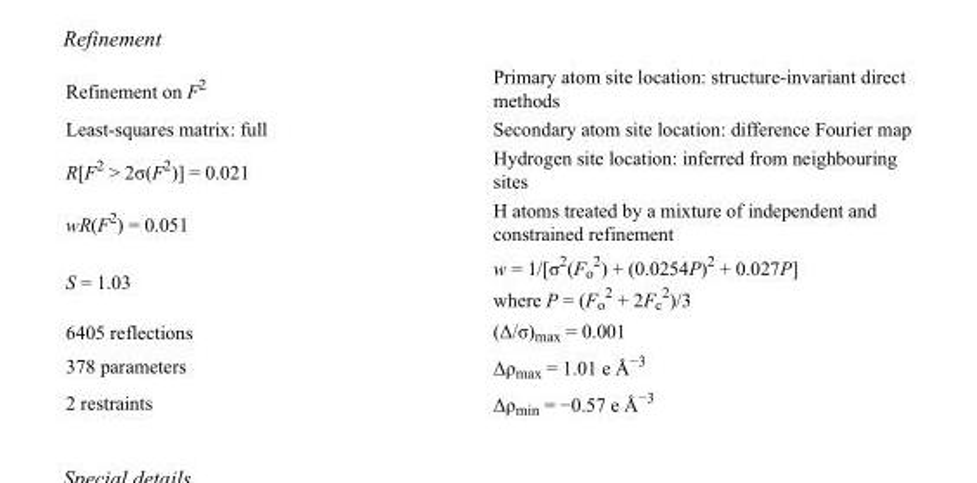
<table><tbody><tr><td>Refinement on F<sup>2</sup></td><td>Primary atom site location: structure-invariant direct methods</td></tr><tr><td>Least-squares matrix: full</td><td>Secondary atom site location: difference Fourier map</td></tr><tr><td>R[F<sup>2</sup> &gt; 2σ(F<sup>2</sup>)] = 0.021</td><td>Hydrogen site location: inferred from neighbouring sites</td></tr><tr><td>wR(F<sup>2</sup>) = 0.051</td><td>H atoms treated by a mixture of independent and constrained refinement</td></tr><tr><td>S = 1.03</td><td>w = 1/[σ<sup>2</sup>(F<sub>o</sub> <sup>2</sup>) + (0.0254P)<sup>2</sup> + 0.027P] where P = (F<sub>o</sub> <sup>2</sup> + 2F<sub>c</sub> <sup>2</sup>)/3</td></tr><tr><td>6405 reflections</td><td>(Δ/σ)<sub>max</sub> = 0.001</td></tr><tr><td>378 parameters</td><td>Δρ<sub>max</sub> = 1.01 e Å<sup>−3</sup></td></tr><tr><td>2 restraints</td><td>Δρ<sub>min</sub> = −0.57 e Å<sup>−3</sup></td></tr></tbody></table>